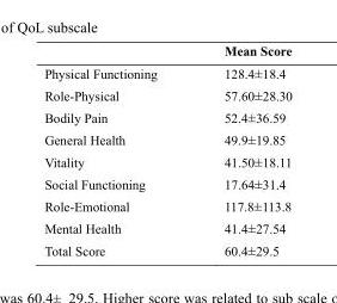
<table><thead><tr><td></td><td>Mean Score</td></tr></thead><tbody><tr><td>Physical Functioning</td><td>128.4±18.4</td></tr><tr><td>Role-Physical</td><td>57.60±28.30</td></tr><tr><td>Bodily Pain</td><td>52.4±36.59</td></tr><tr><td>General Health</td><td>49.9±19.85</td></tr><tr><td>Vitality</td><td>41.50±18.11</td></tr><tr><td>Social Functioning</td><td>17.64±31.4</td></tr><tr><td>Role-Emotional</td><td>117.8±113.8</td></tr><tr><td>Mental Health</td><td>41.4±27.54</td></tr><tr><td>Total Score</td><td>60.4±29.5</td></tr></tbody></table>